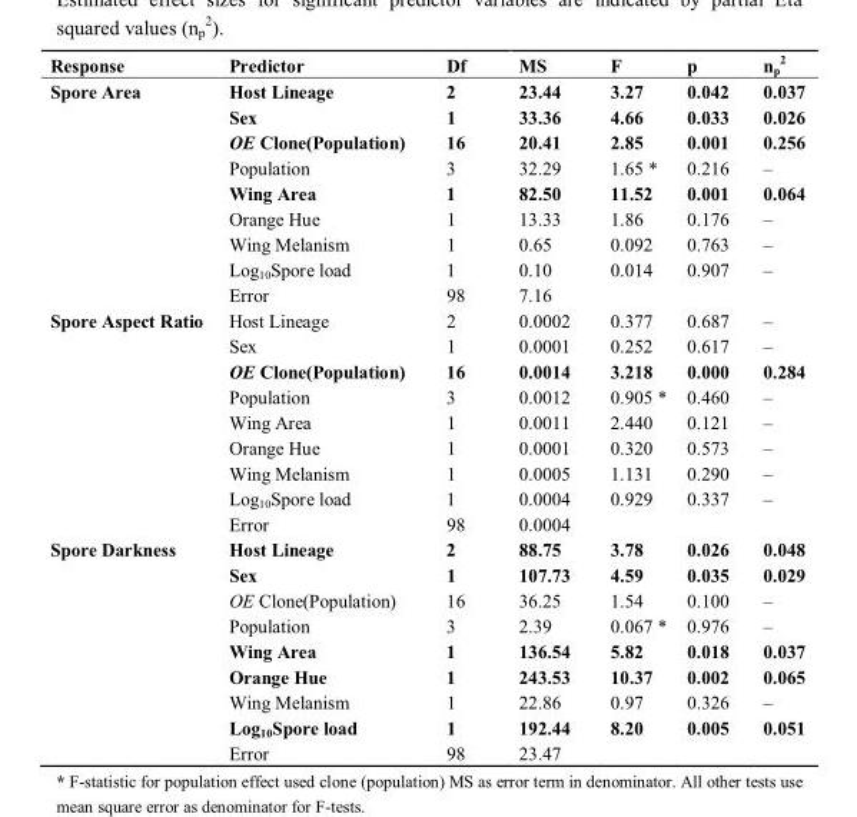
<table><thead><tr><td>Response</td><td>Predictor</td><td>Df</td><td>MS</td><td>F</td><td>p</td><td>n<sub>p</sub> <sup>2</sup></td></tr></thead><tbody><tr><td rowspan="9">Spore Area</td><td>Host Lineage</td><td>2</td><td>23.44</td><td>3.27</td><td>0.042</td><td>0.037</td></tr><tr><td>Sex</td><td>1</td><td>33.36</td><td>4.66</td><td>0.033</td><td>0.026</td></tr><tr><td>OE Clone(Population)</td><td>16</td><td>20.41</td><td>2.85</td><td>0.001</td><td>0.256</td></tr><tr><td>Population</td><td>3</td><td>32.29</td><td>1.65 *</td><td>0.216</td><td>–</td></tr><tr><td>Wing Area</td><td>1</td><td>82.50</td><td>11.52</td><td>0.001</td><td>0.064</td></tr><tr><td>Orange Hue</td><td>1</td><td>13.33</td><td>1.86</td><td>0.176</td><td>–</td></tr><tr><td>Wing Melanism</td><td>1</td><td>0.65</td><td>0.092</td><td>0.763</td><td>–</td></tr><tr><td>Log<sub>10</sub>Spore load</td><td>1</td><td>0.10</td><td>0.014</td><td>0.907</td><td>–</td></tr><tr><td>Error</td><td>98</td><td>7.16</td><td></td><td></td><td></td></tr><tr><td rowspan="9">Spore Aspect Ratio</td><td>Host Lineage</td><td>2</td><td>0.0002</td><td>0.377</td><td>0.687</td><td>–</td></tr><tr><td>Sex</td><td>1</td><td>0.0001</td><td>0.252</td><td>0.617</td><td>–</td></tr><tr><td>OE Clone(Population)</td><td>16</td><td>0.0014</td><td>3.218</td><td>0.000</td><td>0.284</td></tr><tr><td>Population</td><td>3</td><td>0.0012</td><td>0.905 *</td><td>0.460</td><td>–</td></tr><tr><td>Wing Area</td><td>1</td><td>0.0011</td><td>2.440</td><td>0.121</td><td>–</td></tr><tr><td>Orange Hue</td><td>1</td><td>0.0001</td><td>0.320</td><td>0.573</td><td>–</td></tr><tr><td>Wing Melanism</td><td>1</td><td>0.0005</td><td>1.131</td><td>0.290</td><td>–</td></tr><tr><td>Log<sub>10</sub>Spore load</td><td>1</td><td>0.0004</td><td>0.929</td><td>0.337</td><td>–</td></tr><tr><td>Error</td><td>98</td><td>0.0004</td><td></td><td></td><td></td></tr><tr><td rowspan="9">Spore Darkness</td><td>Host Lineage</td><td>2</td><td>88.75</td><td>3.78</td><td>0.026</td><td>0.048</td></tr><tr><td>Sex</td><td>1</td><td>107.73</td><td>4.59</td><td>0.035</td><td>0.029</td></tr><tr><td>OE Clone(Population)</td><td>16</td><td>36.25</td><td>1.54</td><td>0.100</td><td>–</td></tr><tr><td>Population</td><td>3</td><td>2.39</td><td>0.067 *</td><td>0.976</td><td>–</td></tr><tr><td>Wing Area</td><td>1</td><td>136.54</td><td>5.82</td><td>0.018</td><td>0.037</td></tr><tr><td>Orange Hue</td><td>1</td><td>243.53</td><td>10.37</td><td>0.002</td><td>0.065</td></tr><tr><td>Wing Melanism</td><td>1</td><td>22.86</td><td>0.97</td><td>0.326</td><td>–</td></tr><tr><td>Log<sub>10</sub>Spore load</td><td>1</td><td>192.44</td><td>8.20</td><td>0.005</td><td>0.051</td></tr><tr><td>Error</td><td>98</td><td>23.47</td><td></td><td></td><td></td></tr></tbody></table>